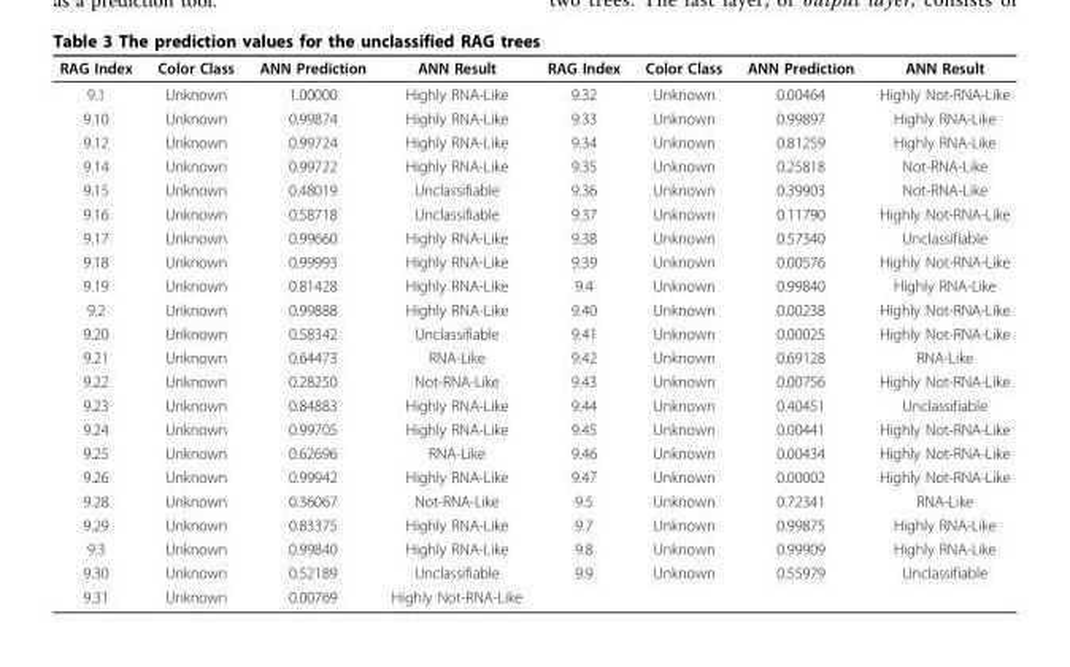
<table><thead><tr><td>RAG Index</td><td>Color Class</td><td>ANN Prediction</td><td>ANN Result</td><td>RAG Index</td><td>Color Class</td><td>ANN Prediction</td><td>ANN Result</td></tr></thead><tbody><tr><td>9.1</td><td>Unknown</td><td>1.00000</td><td>Highly RNA-Like</td><td>9.32</td><td>Unknown</td><td>0.00464</td><td>Highly Not-RNA-Like</td></tr><tr><td>9.10</td><td>Unknown</td><td>0.99874</td><td>Highly RNA-Like</td><td>9.33</td><td>Unknown</td><td>0.99897</td><td>Highly RNA-Like</td></tr><tr><td>9.12</td><td>Unknown</td><td>0.99724</td><td>Highly RNA-Like</td><td>9.34</td><td>Unknown</td><td>0.81259</td><td>Highly RNA-Like</td></tr><tr><td>9.14</td><td>Unknown</td><td>0.99722</td><td>Highly RNA-Like</td><td>9.35</td><td>Unknown</td><td>0.25818</td><td>Not-RNA-Like</td></tr><tr><td>9.15</td><td>Unknown</td><td>0.48019</td><td>Unclassifiable</td><td>9.36</td><td>Unknown</td><td>0.39903</td><td>Not-RNA-Like</td></tr><tr><td>9.16</td><td>Unknown</td><td>0.58718</td><td>Unclassifiable</td><td>9.37</td><td>Unknown</td><td>0.11790</td><td>Highly Not-RNA-Like</td></tr><tr><td>9.17</td><td>Unknown</td><td>0.99660</td><td>Highly RNA-Like</td><td>9.38</td><td>Unknown</td><td>0.57340</td><td>Unclassifiable</td></tr><tr><td>9.18</td><td>Unknown</td><td>0.99993</td><td>Highly RNA-Like</td><td>9.39</td><td>Unknown</td><td>0.00576</td><td>Highly Not-RNA-Like</td></tr><tr><td>9.19</td><td>Unknown</td><td>0.81428</td><td>Highly RNA-Like</td><td>9.4</td><td>Unknown</td><td>0.99840</td><td>Highly RNA-Like</td></tr><tr><td>9.2</td><td>Unknown</td><td>0.99888</td><td>Highly RNA-Like</td><td>9.40</td><td>Unknown</td><td>0.00238</td><td>Highly Not-RNA-Like</td></tr><tr><td>9.20</td><td>Unknown</td><td>0.58342</td><td>Unclassifiable</td><td>9.41</td><td>Unknown</td><td>0.00025</td><td>Highly Not-RNA-Like</td></tr><tr><td>9.21</td><td>Unknown</td><td>0.64473</td><td>RNA-Like</td><td>9.42</td><td>Unknown</td><td>0.69128</td><td>RNA-Like</td></tr><tr><td>9.22</td><td>Unknown</td><td>0.28250</td><td>Not-RNA-Like</td><td>9.43</td><td>Unknown</td><td>0.00756</td><td>Highly Not-RNA-Like</td></tr><tr><td>9.23</td><td>Unknown</td><td>0.84883</td><td>Highly RNA-Like</td><td>9.44</td><td>Unknown</td><td>0.40451</td><td>Unclassifiable</td></tr><tr><td>9.24</td><td>Unknown</td><td>0.99705</td><td>Highly RNA-Like</td><td>9.45</td><td>Unknown</td><td>0.00441</td><td>Highly Not-RNA-Like</td></tr><tr><td>9.25</td><td>Unknown</td><td>0.62696</td><td>RNA-Like</td><td>9.46</td><td>Unknown</td><td>0.00434</td><td>Highly Not-RNA-Like</td></tr><tr><td>9.26</td><td>Unknown</td><td>0.99942</td><td>Highly RNA-Like</td><td>9.47</td><td>Unknown</td><td>0.00002</td><td>Highly Not-RNA-Like</td></tr><tr><td>9.28</td><td>Unknown</td><td>0.36067</td><td>Not-RNA-Like</td><td>9.5</td><td>Unknown</td><td>0.72341</td><td>RNA-Like</td></tr><tr><td>9.29</td><td>Unknown</td><td>0.83375</td><td>Highly RNA-Like</td><td>9.7</td><td>Unknown</td><td>0.99875</td><td>Highly RNA-Like</td></tr><tr><td>9.3</td><td>Unknown</td><td>0.99840</td><td>Highly RNA-Like</td><td>9.8</td><td>Unknown</td><td>0.99909</td><td>Highly RNA-Like</td></tr><tr><td>9.30</td><td>Unknown</td><td>0.52189</td><td>Unclassifiable</td><td>9.9</td><td>Unknown</td><td>0.55979</td><td>Unclassifiable</td></tr><tr><td>9.31</td><td>Unknown</td><td>0.00769</td><td>Highly Not-RNA-Like</td><td></td><td></td><td></td><td></td></tr></tbody></table>